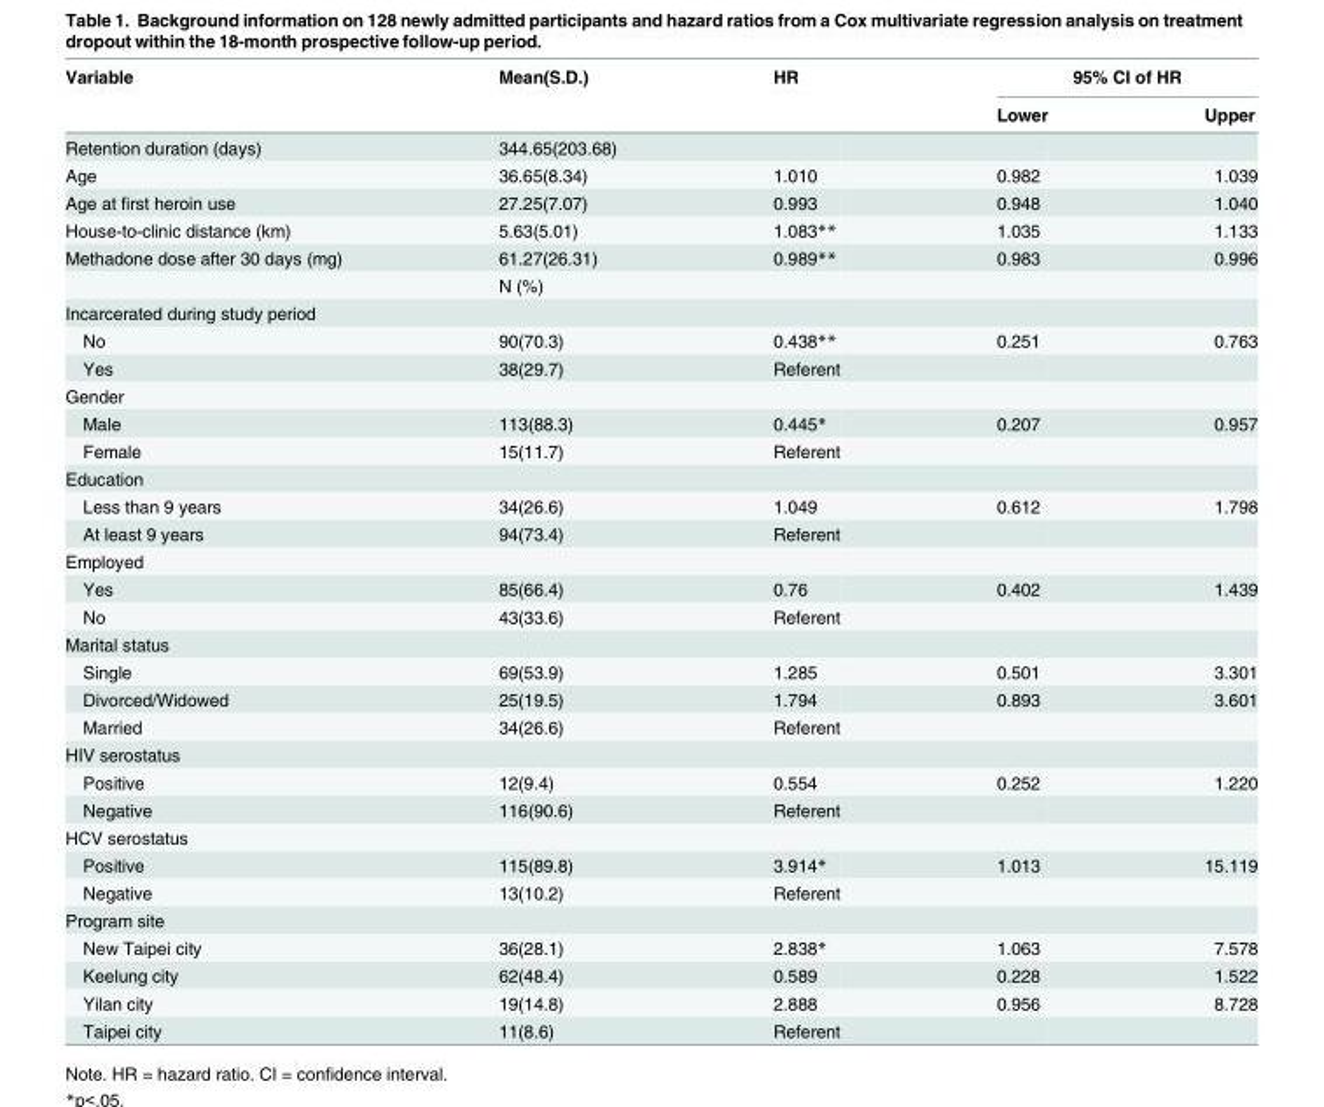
<table><thead><tr><td rowspan="2">Variable</td><td rowspan="2">Mean(S.D.)</td><td rowspan="2">HR</td><td colspan="2">95% CI of HR</td></tr><tr><td>Lower</td><td>Upper</td></tr></thead><tbody><tr><td>Retention duration (days)</td><td>344.65(203.68)</td><td></td><td></td><td></td></tr><tr><td>Age</td><td>36.65(8.34)</td><td>1.010</td><td>0.982</td><td>1.039</td></tr><tr><td>Age at first heroin use</td><td>27.25(7.07)</td><td>0.993</td><td>0.948</td><td>1.040</td></tr><tr><td>House-to-clinic distance (km)</td><td>5.63(5.01)</td><td>1.083**</td><td>1.035</td><td>1.133</td></tr><tr><td rowspan="2">Methadone dose after 30 days (mg)</td><td>61.27(26.31)</td><td>0.989**</td><td>0.983</td><td>0.996</td></tr><tr><td>N (%)</td><td></td><td></td><td></td></tr><tr><td colspan="5">Incarcerated during study period</td></tr><tr><td>No</td><td>90(70.3)</td><td>0.438**</td><td>0.251</td><td>0.763</td></tr><tr><td>Yes</td><td>38(29.7)</td><td>Referent</td><td></td><td></td></tr><tr><td colspan="5">Gender</td></tr><tr><td>Male</td><td>113(88.3)</td><td>0.445*</td><td>0.207</td><td>0.957</td></tr><tr><td>Female</td><td>15(11.7)</td><td>Referent</td><td></td><td></td></tr><tr><td colspan="5">Education</td></tr><tr><td>Less than 9 years</td><td>34(26.6)</td><td>1.049</td><td>0.612</td><td>1.798</td></tr><tr><td>At least 9 years</td><td>94(73.4)</td><td>Referent</td><td></td><td></td></tr><tr><td colspan="5">Employed</td></tr><tr><td>Yes</td><td>85(66.4)</td><td>0.76</td><td>0.402</td><td>1.439</td></tr><tr><td>No</td><td>43(33.6)</td><td>Referent</td><td></td><td></td></tr><tr><td colspan="5">Marital status</td></tr><tr><td>Single</td><td>69(53.9)</td><td>1.285</td><td>0.501</td><td>3.301</td></tr><tr><td>Divorced/Widowed</td><td>25(19.5)</td><td>1.794</td><td>0.893</td><td>3.601</td></tr><tr><td>Married</td><td>34(26.6)</td><td>Referent</td><td></td><td></td></tr><tr><td colspan="5">HIV serostatus</td></tr><tr><td>Positive</td><td>12(9.4)</td><td>0.554</td><td>0.252</td><td>1.220</td></tr><tr><td>Negative</td><td>116(90.6)</td><td>Referent</td><td></td><td></td></tr><tr><td colspan="5">HCV serostatus</td></tr><tr><td>Positive</td><td>115(89.8)</td><td>3.914*</td><td>1.013</td><td>15.119</td></tr><tr><td>Negative</td><td>13(10.2)</td><td>Referent</td><td></td><td></td></tr><tr><td colspan="5">Program site</td></tr><tr><td>New Taipei city</td><td>36(28.1)</td><td>2.838*</td><td>1.063</td><td>7.578</td></tr><tr><td>Keelung city</td><td>62(48.4)</td><td>0.589</td><td>0.228</td><td>1.522</td></tr><tr><td>Yilan city</td><td>19(14.8)</td><td>2.888</td><td>0.956</td><td>8.728</td></tr><tr><td>Taipei city</td><td>11(8.6)</td><td>Referent</td><td></td><td></td></tr></tbody></table>